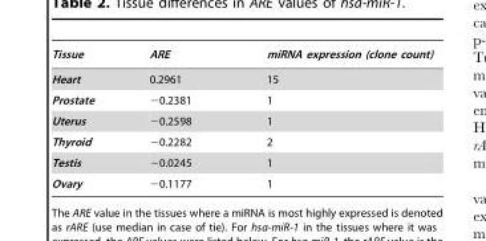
<table><thead><tr><td>Tissue</td><td>ARE</td><td>miRNA expression (clone count)</td></tr></thead><tbody><tr><td>Heart</td><td>0.2961</td><td>15</td></tr><tr><td>Prostate</td><td>−0.2381</td><td>1</td></tr><tr><td>Uterus</td><td>−0.2598</td><td>1</td></tr><tr><td>Thyroid</td><td>−0.2282</td><td>2</td></tr><tr><td>Testis</td><td>−0.0245</td><td>1</td></tr><tr><td>Ovary</td><td>−0.1177</td><td>1</td></tr></tbody></table>